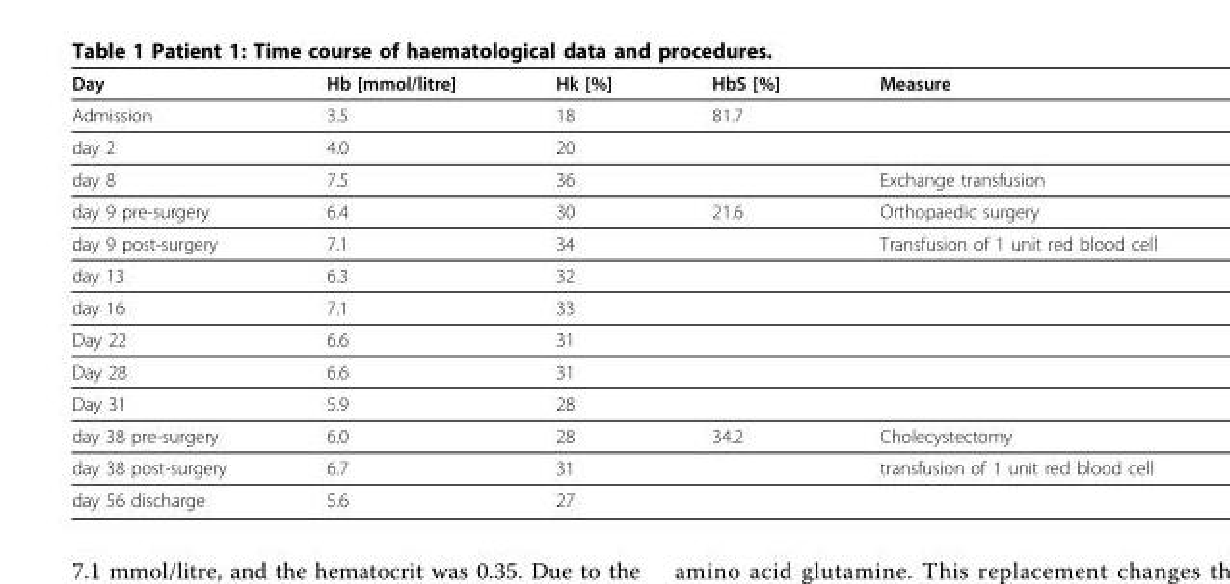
<table><thead><tr><td>Day</td><td>Hb [mmol/litre]</td><td>Hk [%]</td><td>HbS [%]</td><td>Measure</td></tr></thead><tbody><tr><td>Admission</td><td>3.5</td><td>18</td><td>81.7</td><td></td></tr><tr><td>day 2</td><td>4.0</td><td>20</td><td></td><td></td></tr><tr><td>day 8</td><td>7.5</td><td>36</td><td></td><td>Exchange transfusion</td></tr><tr><td>day 9 pre-surgery</td><td>6.4</td><td>30</td><td>21.6</td><td>Orthopaedic surgery</td></tr><tr><td>day 9 post-surgery</td><td>7.1</td><td>34</td><td></td><td>Transfusion of 1 unit red blood cell</td></tr><tr><td>day 13</td><td>6.3</td><td>32</td><td></td><td></td></tr><tr><td>day 16</td><td>7.1</td><td>33</td><td></td><td></td></tr><tr><td>Day 22</td><td>6.6</td><td>31</td><td></td><td></td></tr><tr><td>Day 28</td><td>6.6</td><td>31</td><td></td><td></td></tr><tr><td>Day 31</td><td>5.9</td><td>28</td><td></td><td></td></tr><tr><td>day 38 pre-surgery</td><td>6.0</td><td>28</td><td>34.2</td><td>Cholecystectomy</td></tr><tr><td>day 38 post-surgery</td><td>6.7</td><td>31</td><td></td><td>transfusion of 1 unit red blood cell</td></tr><tr><td>day 56 discharge</td><td>5.6</td><td>27</td><td></td><td></td></tr></tbody></table>